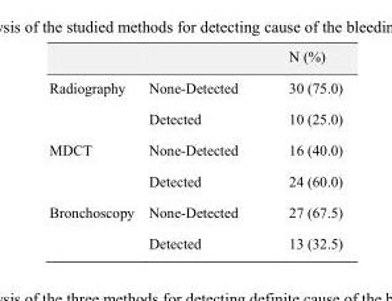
<table><thead><tr><td></td><td></td><td>N (%)</td></tr></thead><tbody><tr><td rowspan="2">Radiography</td><td>None-Detected</td><td>30 (75.0)</td></tr><tr><td>Detected</td><td>10 (25.0)</td></tr><tr><td rowspan="2">MDCT</td><td>None-Detected</td><td>16 (40.0)</td></tr><tr><td>Detected</td><td>24 (60.0)</td></tr><tr><td rowspan="2">Bronchoscopy</td><td>None-Detected</td><td>27 (67.5)</td></tr><tr><td>Detected</td><td>13 (32.5)</td></tr></tbody></table>